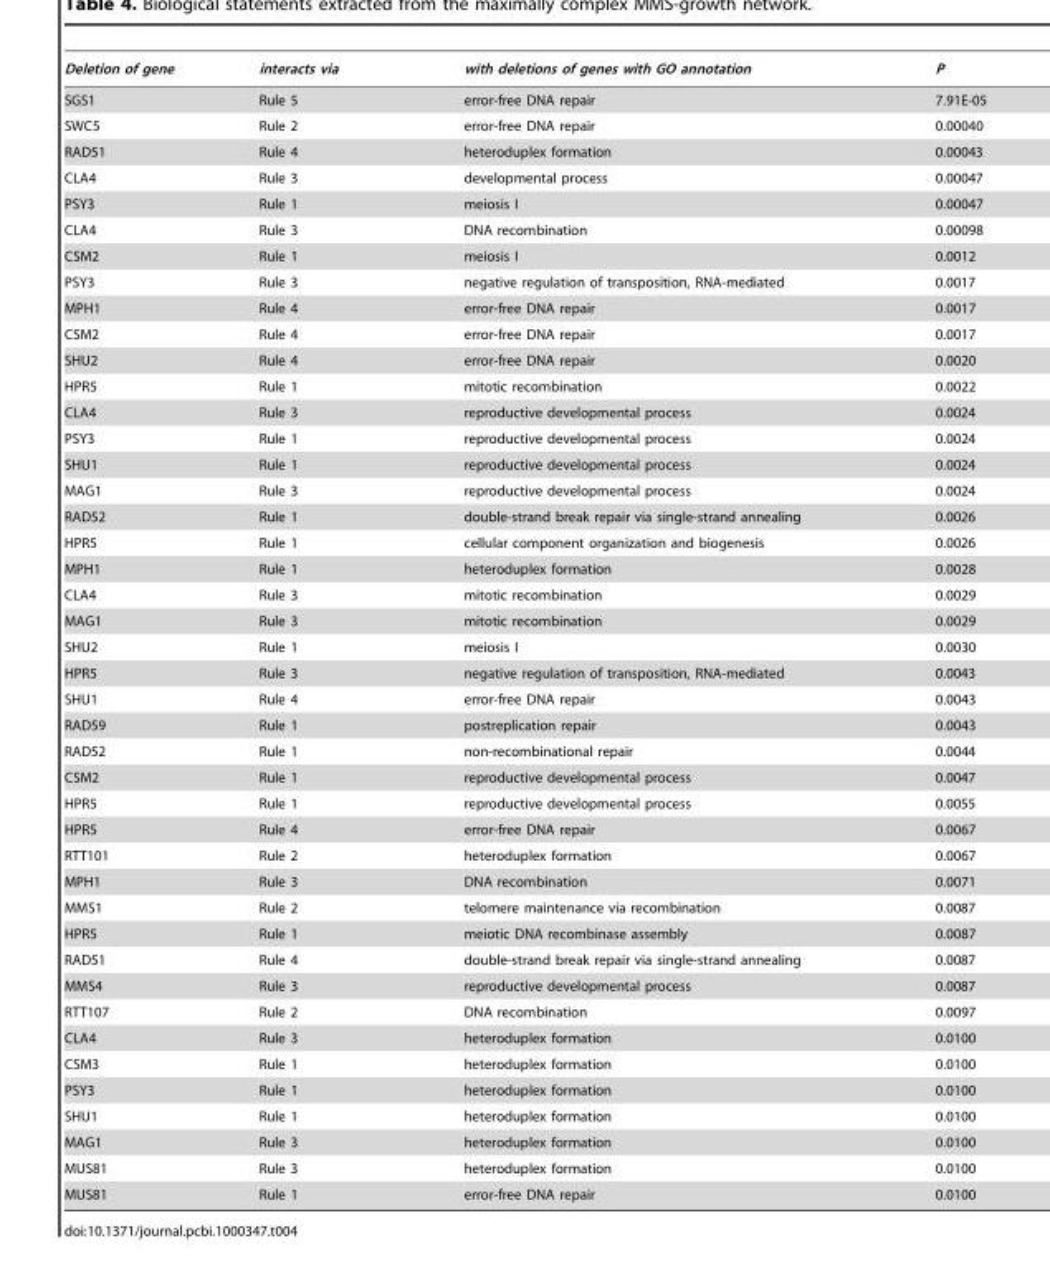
<table><thead><tr><td>Deletion of gene</td><td>interacts via</td><td>with deletions of genes with GO annotation</td><td>P</td></tr></thead><tbody><tr><td>SGS1</td><td>Rule 5</td><td>error-free DNA repair</td><td>7.91E-05</td></tr><tr><td>SWC5</td><td>Rule 2</td><td>error-free DNA repair</td><td>0.00040</td></tr><tr><td>RAD51</td><td>Rule 4</td><td>heteroduplex formation</td><td>0.00043</td></tr><tr><td>CLA4</td><td>Rule 3</td><td>developmental process</td><td>0.00047</td></tr><tr><td>PSY3</td><td>Rule 1</td><td>meiosis I</td><td>0.00047</td></tr><tr><td>CLA4</td><td>Rule 3</td><td>DNA recombination</td><td>0.00098</td></tr><tr><td>CSM2</td><td>Rule 1</td><td>meiosis I</td><td>0.0012</td></tr><tr><td>PSY3</td><td>Rule 3</td><td>negative regulation of transposition, RNA-mediated</td><td>0.0017</td></tr><tr><td>MPH1</td><td>Rule 4</td><td>error-free DNA repair</td><td>0.0017</td></tr><tr><td>CSM2</td><td>Rule 4</td><td>error-free DNA repair</td><td>0.0017</td></tr><tr><td>SHU2</td><td>Rule 4</td><td>error-free DNA repair</td><td>0.0020</td></tr><tr><td>HPR5</td><td>Rule 1</td><td>mitotic recombination</td><td>0.0022</td></tr><tr><td>CLA4</td><td>Rule 3</td><td>reproductive developmental process</td><td>0.0024</td></tr><tr><td>PSY3</td><td>Rule 1</td><td>reproductive developmental process</td><td>0.0024</td></tr><tr><td>SHU1</td><td>Rule 1</td><td>reproductive developmental process</td><td>0.0024</td></tr><tr><td>MAG1</td><td>Rule 3</td><td>reproductive developmental process</td><td>0.0024</td></tr><tr><td>RAD52</td><td>Rule 1</td><td>double-strand break repair via single-strand annealing</td><td>0.0026</td></tr><tr><td>HPR5</td><td>Rule 1</td><td>cellular component organization and biogenesis</td><td>0.0026</td></tr><tr><td>MPH1</td><td>Rule 1</td><td>heteroduplex formation</td><td>0.0028</td></tr><tr><td>CLA4</td><td>Rule 3</td><td>mitotic recombination</td><td>0.0029</td></tr><tr><td>MAG1</td><td>Rule 3</td><td>mitotic recombination</td><td>0.0029</td></tr><tr><td>SHU2</td><td>Rule 1</td><td>meiosis I</td><td>0.0030</td></tr><tr><td>HPR5</td><td>Rule 3</td><td>negative regulation of transposition, RNA-mediated</td><td>0.0043</td></tr><tr><td>SHU1</td><td>Rule 4</td><td>error-free DNA repair</td><td>0.0043</td></tr><tr><td>RAD59</td><td>Rule 1</td><td>postreplication repair</td><td>0.0043</td></tr><tr><td>RAD52</td><td>Rule 1</td><td>non-recombinational repair</td><td>0.0044</td></tr><tr><td>CSM2</td><td>Rule 1</td><td>reproductive developmental process</td><td>0.0047</td></tr><tr><td>HPR5</td><td>Rule 1</td><td>reproductive developmental process</td><td>0.0055</td></tr><tr><td>HPR5</td><td>Rule 4</td><td>error-free DNA repair</td><td>0.0067</td></tr><tr><td>RTT101</td><td>Rule 2</td><td>heteroduplex formation</td><td>0.0067</td></tr><tr><td>MPH1</td><td>Rule 3</td><td>DNA recombination</td><td>0.0071</td></tr><tr><td>MMS1</td><td>Rule 2</td><td>telomere maintenance via recombination</td><td>0.0087</td></tr><tr><td>HPR5</td><td>Rule 1</td><td>meiotic DNA recombinase assembly</td><td>0.0087</td></tr><tr><td>RAD51</td><td>Rule 4</td><td>double-strand break repair via single-strand annealing</td><td>0.0087</td></tr><tr><td>MMS4</td><td>Rule 3</td><td>reproductive developmental process</td><td>0.0087</td></tr><tr><td>RTT107</td><td>Rule 2</td><td>DNA recombination</td><td>0.0097</td></tr><tr><td>CLA4</td><td>Rule 3</td><td>heteroduplex formation</td><td>0.0100</td></tr><tr><td>CSM3</td><td>Rule 1</td><td>heteroduplex formation</td><td>0.0100</td></tr><tr><td>PSY3</td><td>Rule 1</td><td>heteroduplex formation</td><td>0.0100</td></tr><tr><td>SHU1</td><td>Rule 1</td><td>heteroduplex formation</td><td>0.0100</td></tr><tr><td>MAG1</td><td>Rule 3</td><td>heteroduplex formation</td><td>0.0100</td></tr><tr><td>MUS81</td><td>Rule 3</td><td>heteroduplex formation</td><td>0.0100</td></tr><tr><td>MUS81</td><td>Rule 1</td><td>error-free DNA repair</td><td>0.0100</td></tr></tbody></table>